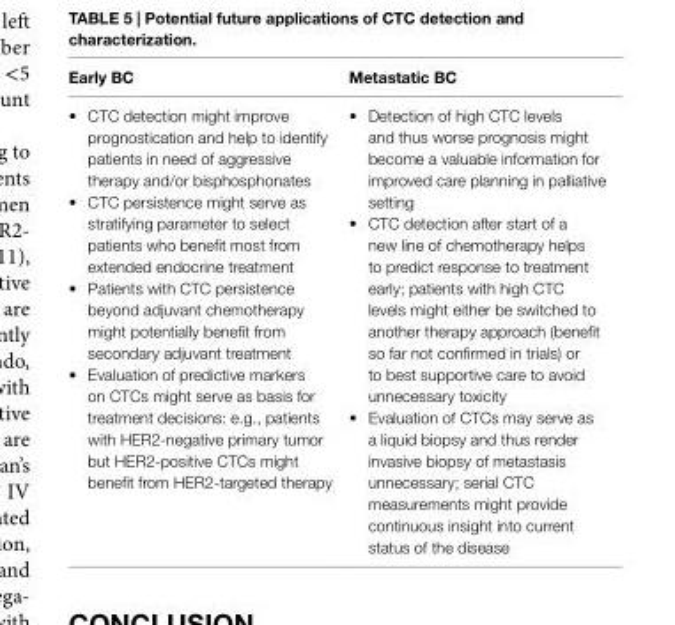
<table><thead><tr><td>early BC</td><td>Metastatic BC</td></tr></thead><tbody><tr><td>• CTC detection might improve prognostication and help to identify patients in need of aggressive therapy and/or bisphosphonates • CTC persistence might serve as stratifying parameter to select patients who benefit most from extended endocrine treatment • Patients with CTC persistence beyond adjuvant chemotherapy might potentially benefit from secondary adjuvant treatment • Evaluation of predictive markers on CTCs might serve as basis for treatment decisions: e.g., patients with HER2-negative primary tumor but HER2-positive CTCs might benefit from HER2-targeted therapy</td><td>• Detection of high CTC levels and thus worse prognosis might become a valuable information for improved care planning in palliative setting • CTC detection after start of a new line of chemotherapy helps to predict response to treatment early; patients with high CTC levels might either be switched to another therapy approach (benefit so far not confirmed in trials) or to best supportive care to avoid unnecessary toxicity • Evaluation of CTCs may serve as a liquid biopsy and thus render invasive biopsy of metastasis unnecessary; serial CTC measurements might provide continuous insight into current status of the disease</td></tr></tbody></table>